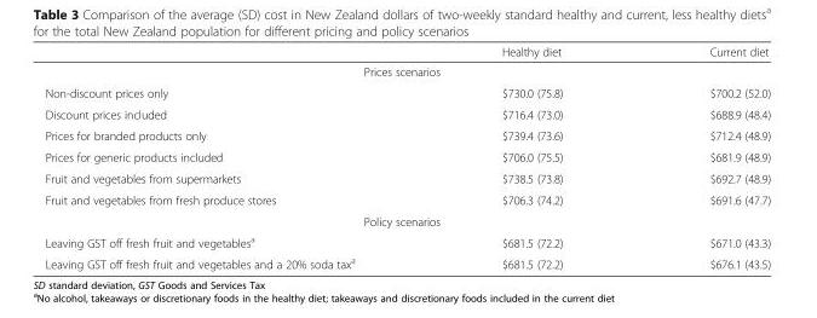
<table><thead><tr><td></td><td>Healthy diet</td><td>Current diet</td></tr></thead><tbody><tr><td colspan="3">Prices scenarios</td></tr><tr><td>Non-discount prices only</td><td>$730.0 (75.8)</td><td>$700.2 (52.0)</td></tr><tr><td>Discount prices included</td><td>$716.4 (73.0)</td><td>$688.9 (48.4)</td></tr><tr><td>Prices for branded products only</td><td>$739.4 (73.6)</td><td>$712.4 (48.9)</td></tr><tr><td>Prices for generic products included</td><td>$706.0 (75.5)</td><td>$681.9 (48.9)</td></tr><tr><td>Fruit and vegetables from supermarkets</td><td>$738.5 (73.8)</td><td>$692.7 (48.9)</td></tr><tr><td>Fruit and vegetables from fresh produce stores</td><td>$706.3 (74.2)</td><td>$691.6 (47.7)</td></tr><tr><td colspan="3">Policy scenarios</td></tr><tr><td>Leaving GST off fresh fruit and vegetables<sup>a</sup></td><td>$681.5 (72.2)</td><td>$671.0 (43.3)</td></tr><tr><td>Leaving GST off fresh fruit and vegetables and a 20% soda tax<sup>a</sup></td><td>$681.5 (72.2)</td><td>$676.1 (43.5)</td></tr></tbody></table>